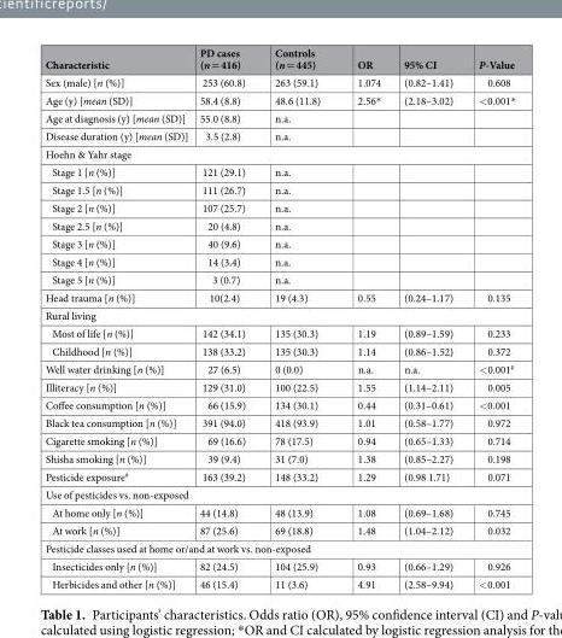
<table><thead><tr><td>Characteristic</td><td>PD cases (n = 416)</td><td>Controls (n = 445)</td><td>OR</td><td>95% CI</td><td>P-Value</td></tr></thead><tbody><tr><td>Sex (male) [n (%)]</td><td>253 (60.8)</td><td>263 (59.1)</td><td>1.074</td><td>(0.82–1.41)</td><td>0.608</td></tr><tr><td>Age (y) [mean (SD)]</td><td>58.4 (8.8)</td><td>48.6 (11.8)</td><td>2.56*</td><td>(2.18–3.02)</td><td>&lt;0.001*</td></tr><tr><td>Age at diagnosis (y) [mean (SD)]</td><td>55.0 (8.8)</td><td>n.a.</td><td></td><td></td><td></td></tr><tr><td>Disease duration (y) [mean (SD)]</td><td>3.5 (2.8)</td><td>n.a.</td><td></td><td></td><td></td></tr><tr><td colspan="6">Hoehn &amp; Yahr stage</td></tr><tr><td>Stage 1 [n (%)]</td><td>121 (29.1)</td><td>n.a.</td><td></td><td></td><td></td></tr><tr><td>Stage 1.5 [n (%)]</td><td>111 (26.7)</td><td>n.a.</td><td></td><td></td><td></td></tr><tr><td>Stage 2 [n (%)]</td><td>107 (25.7)</td><td>n.a.</td><td></td><td></td><td></td></tr><tr><td>Stage 2.5 [n (%)]</td><td>20 (4.8)</td><td>n.a.</td><td></td><td></td><td></td></tr><tr><td>Stage 3 [n (%)]</td><td>40 (9.6)</td><td>n.a.</td><td></td><td></td><td></td></tr><tr><td>Stage 4 [n (%)]</td><td>14 (3.4)</td><td>n.a.</td><td></td><td></td><td></td></tr><tr><td>Stage 5 [n (%)]</td><td>3 (0.7)</td><td>n.a.</td><td></td><td></td><td></td></tr><tr><td>Head trauma [n (%)]</td><td>10(2.4)</td><td>19 (4.3)</td><td>0.55</td><td>(0.24–1.17)</td><td>0.135</td></tr><tr><td colspan="6">Rural living</td></tr><tr><td>Most of life [n (%)]</td><td>142 (34.1)</td><td>135 (30.3)</td><td>1.19</td><td>(0.89–1.59)</td><td>0.233</td></tr><tr><td>Childhood [n (%)]</td><td>138 (33.2)</td><td>135 (30.3)</td><td>1.14</td><td>(0.86–1.52)</td><td>0.372</td></tr><tr><td>Well water drinking [n (%)]</td><td>27 (6.5)</td><td>0 (0.0)</td><td>n.a.</td><td>n.a.</td><td>&lt;0.001<sup>‡</sup></td></tr><tr><td>Illiteracy [n (%)]</td><td>129 (31.0)</td><td>100 (22.5)</td><td>1.55</td><td>(1.14–2.11)</td><td>0.005</td></tr><tr><td>Coffee consumption [n (%)]</td><td>66 (15.9)</td><td>134 (30.1)</td><td>0.44</td><td>(0.31–0.61)</td><td>&lt;0.001</td></tr><tr><td>Black tea consumption [n (%)]</td><td>391 (94.0)</td><td>418 (93.9)</td><td>1.01</td><td>(0.58–1.77)</td><td>0.972</td></tr><tr><td>Cigarette smoking [n (%)]</td><td>69 (16.6)</td><td>78 (17.5)</td><td>0.94</td><td>(0.65–1.33)</td><td>0.714</td></tr><tr><td>Shisha smoking [n (%)]</td><td>39 (9.4)</td><td>31 (7.0)</td><td>1.38</td><td>(0.85–2.27)</td><td>0.198</td></tr><tr><td>Pesticide exposure<sup>#</sup></td><td>163 (39.2)</td><td>148 (33.2)</td><td>1.29</td><td>(0.98 1.71)</td><td>0.071</td></tr><tr><td colspan="6">Use of pesticides vs. non-exposed</td></tr><tr><td>At home only [n (%)]</td><td>44 (14.8)</td><td>48 (13.9)</td><td>1.08</td><td>(0.69–1.68)</td><td>0.745</td></tr><tr><td>At work [n (%)]</td><td>87 (25.6)</td><td>69 (18.8)</td><td>1.48</td><td>(1.04–2.12)</td><td>0.032</td></tr><tr><td colspan="6">Pesticide classes used at home or/and at work vs. non-exposed</td></tr><tr><td>Insecticides only [n (%)]</td><td>82 (24.5)</td><td>104 (25.9)</td><td>0.93</td><td>(0.66–1.29)</td><td>0.926</td></tr><tr><td>Herbicides and other [n (%)]</td><td>46 (15.4)</td><td>11 (3.6)</td><td>4.91</td><td>(2.58–9.94)</td><td>&lt;0.001</td></tr></tbody></table>